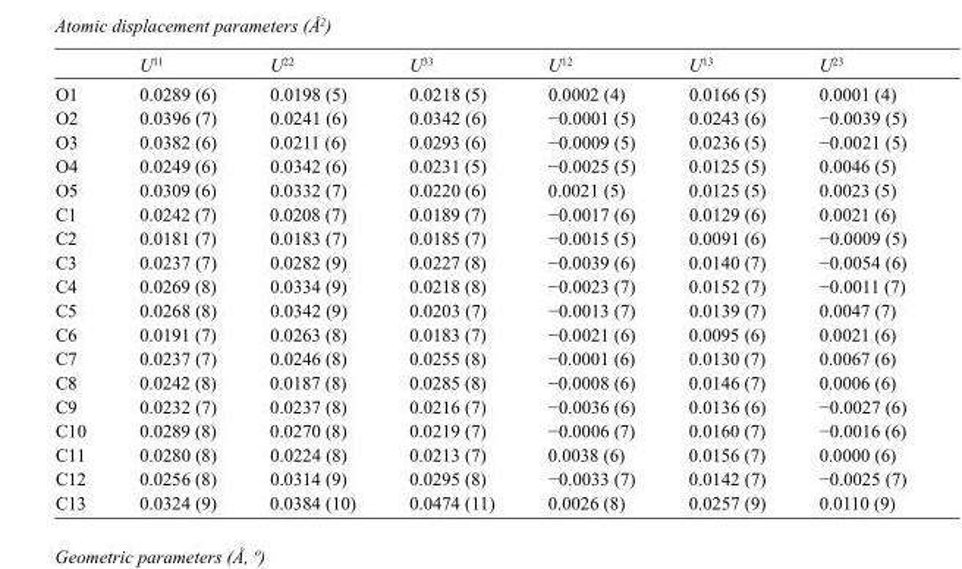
<table><thead><tr><td></td><td>U<sup>11</sup></td><td>U<sup>22</sup></td><td>U<sup>33</sup></td><td>U<sup>12</sup></td><td>U<sup>13</sup></td><td>U<sup>23</sup></td></tr></thead><tbody><tr><td>O1</td><td>0.0289 (6)</td><td>0.0198 (5)</td><td>0.0218 (5)</td><td>0.0002 (4)</td><td>0.0166 (5)</td><td>0.0001 (4)</td></tr><tr><td>O2</td><td>0.0396 (7)</td><td>0.0241 (6)</td><td>0.0342 (6)</td><td>−0.0001 (5)</td><td>0.0243 (6)</td><td>−0.0039 (5)</td></tr><tr><td>O3</td><td>0.0382 (6)</td><td>0.0211 (6)</td><td>0.0293 (6)</td><td>−0.0009 (5)</td><td>0.0236 (5)</td><td>−0.0021 (5)</td></tr><tr><td>O4</td><td>0.0249 (6)</td><td>0.0342 (6)</td><td>0.0231 (5)</td><td>−0.0025 (5)</td><td>0.0125 (5)</td><td>0.0046 (5)</td></tr><tr><td>O5</td><td>0.0309 (6)</td><td>0.0332 (7)</td><td>0.0220 (6)</td><td>0.0021 (5)</td><td>0.0125 (5)</td><td>0.0023 (5)</td></tr><tr><td>C1</td><td>0.0242 (7)</td><td>0.0208 (7)</td><td>0.0189 (7)</td><td>−0.0017 (6)</td><td>0.0129 (6)</td><td>0.0021 (6)</td></tr><tr><td>C2</td><td>0.0181 (7)</td><td>0.0183 (7)</td><td>0.0185 (7)</td><td>−0.0015 (5)</td><td>0.0091 (6)</td><td>−0.0009 (5)</td></tr><tr><td>C3</td><td>0.0237 (7)</td><td>0.0282 (9)</td><td>0.0227 (8)</td><td>−0.0039 (6)</td><td>0.0140 (7)</td><td>−0.0054 (6)</td></tr><tr><td>C4</td><td>0.0269 (8)</td><td>0.0334 (9)</td><td>0.0218 (8)</td><td>−0.0023 (7)</td><td>0.0152 (7)</td><td>−0.0011 (7)</td></tr><tr><td>C5</td><td>0.0268 (8)</td><td>0.0342 (9)</td><td>0.0203 (7)</td><td>−0.0013 (7)</td><td>0.0139 (7)</td><td>0.0047 (7)</td></tr><tr><td>C6</td><td>0.0191 (7)</td><td>0.0263 (8)</td><td>0.0183 (7)</td><td>−0.0021 (6)</td><td>0.0095 (6)</td><td>0.0021 (6)</td></tr><tr><td>C7</td><td>0.0237 (7)</td><td>0.0246 (8)</td><td>0.0255 (8)</td><td>−0.0001 (6)</td><td>0.0130 (7)</td><td>0.0067 (6)</td></tr><tr><td>C8</td><td>0.0242 (8)</td><td>0.0187 (8)</td><td>0.0285 (8)</td><td>−0.0008 (6)</td><td>0.0146 (7)</td><td>0.0006 (6)</td></tr><tr><td>C9</td><td>0.0232 (7)</td><td>0.0237 (8)</td><td>0.0216 (7)</td><td>−0.0036 (6)</td><td>0.0136 (6)</td><td>−0.0027 (6)</td></tr><tr><td>C10</td><td>0.0289 (8)</td><td>0.0270 (8)</td><td>0.0219 (7)</td><td>−0.0006 (7)</td><td>0.0160 (7)</td><td>−0.0016 (6)</td></tr><tr><td>C11</td><td>0.0280 (8)</td><td>0.0224 (8)</td><td>0.0213 (7)</td><td>0.0038 (6)</td><td>0.0156 (7)</td><td>0.0000 (6)</td></tr><tr><td>C12</td><td>0.0256 (8)</td><td>0.0314 (9)</td><td>0.0295 (8)</td><td>−0.0033 (7)</td><td>0.0142 (7)</td><td>−0.0025 (7)</td></tr><tr><td>C13</td><td>0.0324 (9)</td><td>0.0384 (10)</td><td>0.0474 (11)</td><td>0.0026 (8)</td><td>0.0257 (9)</td><td>0.0110 (9)</td></tr></tbody></table>